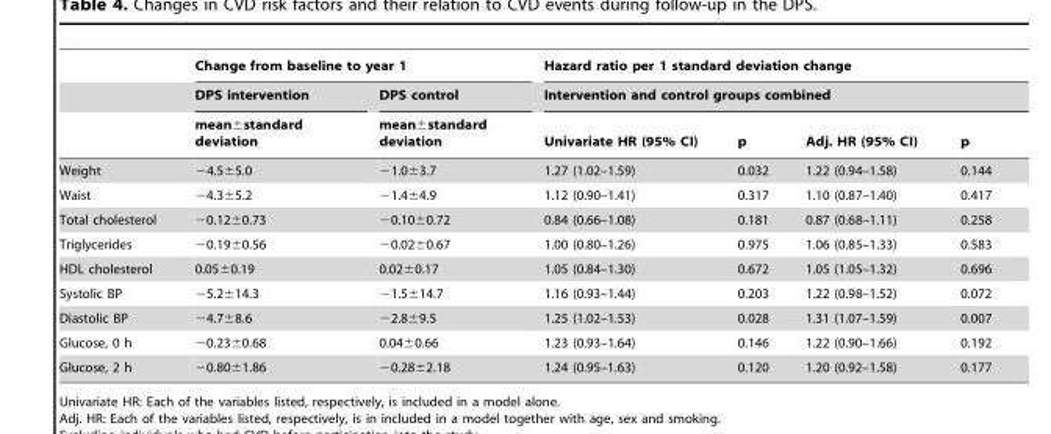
<table><thead><tr><td rowspan="3"></td><td colspan="2">Change from baseline to year 1</td><td rowspan="2" colspan="4">Hazard ratio per 1 standard deviation change Intervention and control groups combined</td></tr><tr><td rowspan="2">DPS intervention mean±standard deviation</td><td rowspan="2">DPS control mean±standard deviation</td></tr><tr><td>Univariate HR (95% CI)</td><td>p</td><td>Adj. HR (95% CI)</td><td>p</td></tr></thead><tbody><tr><td>Weight</td><td>−4.5±5.0</td><td>−1.0±3.7</td><td>1.27 (1.02–1.59)</td><td>0.032</td><td>1.22 (0.94–1.58)</td><td>0.144</td></tr><tr><td>Waist</td><td>−4.3±5.2</td><td>−1.4±4.9</td><td>1.12 (0.90–1.41)</td><td>0.317</td><td>1.10 (0.87–1.40)</td><td>0.417</td></tr><tr><td>Total cholesterol</td><td>−0.12±0.73</td><td>−0.10±0.72</td><td>0.84 (0.66–1.08)</td><td>0.181</td><td>0.87 (0.68–1.11)</td><td>0.258</td></tr><tr><td>Triglycerides</td><td>−0.19±0.56</td><td>−0.02±0.67</td><td>1.00 (0.80–1.26)</td><td>0.975</td><td>1.06 (0.85–1.33)</td><td>0.583</td></tr><tr><td>HDL cholesterol</td><td>0.05±0.19</td><td>0.02±0.17</td><td>1.05 (0.84–1.30)</td><td>0.672</td><td>1.05 (1.05–1.32)</td><td>0.696</td></tr><tr><td>Systolic BP</td><td>−5.2±14.3</td><td>−1.5±14.7</td><td>1.16 (0.93–1.44)</td><td>0.203</td><td>1.22 (0.98–1.52)</td><td>0.072</td></tr><tr><td>Diastolic BP</td><td>−4.7±8.6</td><td>−2.8±9.5</td><td>1.25 (1.02–1.53)</td><td>0.028</td><td>1.31 (1.07–1.59)</td><td>0.007</td></tr><tr><td>Glucose, 0 h</td><td>−0.23±0.68</td><td>0.04±0.66</td><td>1.23 (0.93–1.64)</td><td>0.146</td><td>1.22 (0.90–1.66)</td><td>0.192</td></tr><tr><td>Glucose, 2 h</td><td>−0.80±1.86</td><td>−0.28±2.18</td><td>1.24 (0.95–1.63)</td><td>0.120</td><td>1.20 (0.92–1.58)</td><td>0.177</td></tr></tbody></table>